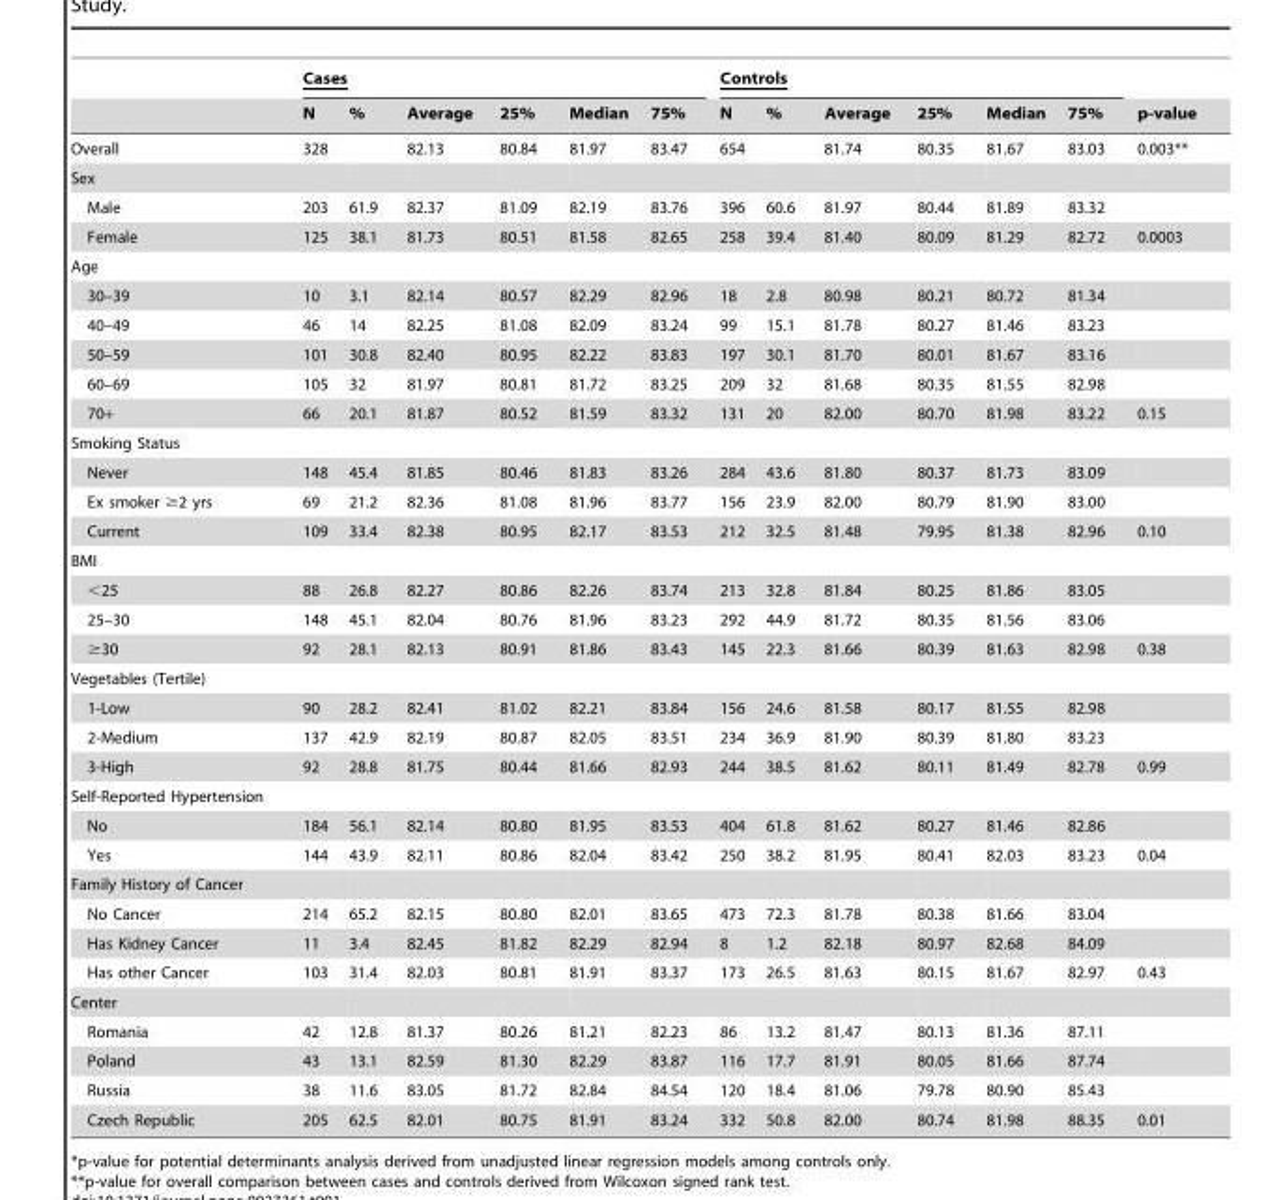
<table><thead><tr><td rowspan="2"></td><td colspan="6">Cases</td><td colspan="6">Controls</td><td rowspan="2">p-value</td></tr><tr><td>N</td><td>%</td><td>Average</td><td>25%</td><td>Median</td><td>75%</td><td>N</td><td>%</td><td>Average</td><td>25%</td><td>Median</td><td>75%</td></tr></thead><tbody><tr><td>Overall</td><td>328</td><td></td><td>82.13</td><td>80.84</td><td>81.97</td><td>83.47</td><td>654</td><td></td><td>81.74</td><td>80.35</td><td>81.67</td><td>83.03</td><td>0.003**</td></tr><tr><td colspan="14">Sex</td></tr><tr><td>Male</td><td>203</td><td>61.9</td><td>82.37</td><td>81.09</td><td>82.19</td><td>83.76</td><td>396</td><td>60.6</td><td>81.97</td><td>80.44</td><td>81.89</td><td>83.32</td><td></td></tr><tr><td>Female</td><td>125</td><td>38.1</td><td>81.73</td><td>80.51</td><td>81.58</td><td>82.65</td><td>258</td><td>39.4</td><td>81.40</td><td>80.09</td><td>81.29</td><td>82.72</td><td>0.0003</td></tr><tr><td colspan="14">Age</td></tr><tr><td>30–39</td><td>10</td><td>3.1</td><td>82.14</td><td>80.57</td><td>82.29</td><td>82.96</td><td>18</td><td>2.8</td><td>80.98</td><td>80.21</td><td>80.72</td><td>81.34</td><td></td></tr><tr><td>40–49</td><td>46</td><td>14</td><td>82.25</td><td>81.08</td><td>82.09</td><td>83.24</td><td>99</td><td>15.1</td><td>81.78</td><td>80.27</td><td>81.46</td><td>83.23</td><td></td></tr><tr><td>50–59</td><td>101</td><td>30.8</td><td>82.40</td><td>80.95</td><td>82.22</td><td>83.83</td><td>197</td><td>30.1</td><td>81.70</td><td>80.01</td><td>81.67</td><td>83.16</td><td></td></tr><tr><td>60–69</td><td>105</td><td>32</td><td>81.97</td><td>80.81</td><td>81.72</td><td>83.25</td><td>209</td><td>32</td><td>81.68</td><td>80.35</td><td>81.55</td><td>82.98</td><td></td></tr><tr><td>70+</td><td>66</td><td>20.1</td><td>81.87</td><td>80.52</td><td>81.59</td><td>83.32</td><td>131</td><td>20</td><td>82.00</td><td>80.70</td><td>81.98</td><td>83.22</td><td>0.15</td></tr><tr><td colspan="14">Smoking Status</td></tr><tr><td>Never</td><td>148</td><td>45.4</td><td>81.85</td><td>80.46</td><td>81.83</td><td>83.26</td><td>284</td><td>43.6</td><td>81.80</td><td>80.37</td><td>81.73</td><td>83.09</td><td></td></tr><tr><td>Ex smoker ≥2 yrs</td><td>69</td><td>21.2</td><td>82.36</td><td>81.08</td><td>81.96</td><td>83.77</td><td>156</td><td>23.9</td><td>82.00</td><td>80.79</td><td>81.90</td><td>83.00</td><td></td></tr><tr><td>Current</td><td>109</td><td>33.4</td><td>82.38</td><td>80.95</td><td>82.17</td><td>83.53</td><td>212</td><td>32.5</td><td>81.48</td><td>79.95</td><td>81.38</td><td>82.96</td><td>0.10</td></tr><tr><td colspan="14">BMI</td></tr><tr><td>&lt;25</td><td>88</td><td>26.8</td><td>82.27</td><td>80.86</td><td>82.26</td><td>83.74</td><td>213</td><td>32.8</td><td>81.84</td><td>80.25</td><td>81.86</td><td>83.05</td><td></td></tr><tr><td>25–30</td><td>148</td><td>45.1</td><td>82.04</td><td>80.76</td><td>81.96</td><td>83.23</td><td>292</td><td>44.9</td><td>81.72</td><td>80.35</td><td>81.56</td><td>83.06</td><td></td></tr><tr><td>≥30</td><td>92</td><td>28.1</td><td>82.13</td><td>80.91</td><td>81.86</td><td>83.43</td><td>145</td><td>22.3</td><td>81.66</td><td>80.39</td><td>81.63</td><td>82.98</td><td>0.38</td></tr><tr><td colspan="14">Vegetables (Tertile)</td></tr><tr><td>1-Low</td><td>90</td><td>28.2</td><td>82.41</td><td>81.02</td><td>82.21</td><td>83.84</td><td>156</td><td>24.6</td><td>81.58</td><td>80.17</td><td>81.55</td><td>82.98</td><td></td></tr><tr><td>2-Medium</td><td>137</td><td>42.9</td><td>82.19</td><td>80.87</td><td>82.05</td><td>83.51</td><td>234</td><td>36.9</td><td>81.90</td><td>80.39</td><td>81.80</td><td>83.23</td><td></td></tr><tr><td>3-High</td><td>92</td><td>28.8</td><td>81.75</td><td>80.44</td><td>81.66</td><td>82.93</td><td>244</td><td>38.5</td><td>81.62</td><td>80.11</td><td>81.49</td><td>82.78</td><td>0.99</td></tr><tr><td colspan="14">Self-Reported Hypertension</td></tr><tr><td>No</td><td>184</td><td>56.1</td><td>82.14</td><td>80.80</td><td>81.95</td><td>83.53</td><td>404</td><td>61.8</td><td>81.62</td><td>80.27</td><td>81.46</td><td>82.86</td><td></td></tr><tr><td>Yes</td><td>144</td><td>43.9</td><td>82.11</td><td>80.86</td><td>82.04</td><td>83.42</td><td>250</td><td>38.2</td><td>81.95</td><td>80.41</td><td>82.03</td><td>83.23</td><td>0.04</td></tr><tr><td colspan="14">Family History of Cancer</td></tr><tr><td>No Cancer</td><td>214</td><td>65.2</td><td>82.15</td><td>80.80</td><td>82.01</td><td>83.65</td><td>473</td><td>72.3</td><td>81.78</td><td>80.38</td><td>81.66</td><td>83.04</td><td></td></tr><tr><td>Has Kidney Cancer</td><td>11</td><td>3.4</td><td>82.45</td><td>81.82</td><td>82.29</td><td>82.94</td><td>8</td><td>1.2</td><td>82.18</td><td>80.97</td><td>82.68</td><td>84.09</td><td></td></tr><tr><td>Has other Cancer</td><td>103</td><td>31.4</td><td>82.03</td><td>80.81</td><td>81.91</td><td>83.37</td><td>173</td><td>26.5</td><td>81.63</td><td>80.15</td><td>81.67</td><td>82.97</td><td>0.43</td></tr><tr><td colspan="14">Center</td></tr><tr><td>Romania</td><td>42</td><td>12.8</td><td>81.37</td><td>80.26</td><td>81.21</td><td>82.23</td><td>86</td><td>13.2</td><td>81.47</td><td>80.13</td><td>81.36</td><td>87.11</td><td></td></tr><tr><td>Poland</td><td>43</td><td>13.1</td><td>82.59</td><td>81.30</td><td>82.29</td><td>83.87</td><td>116</td><td>17.7</td><td>81.91</td><td>80.05</td><td>81.66</td><td>87.74</td><td></td></tr><tr><td>Russia</td><td>38</td><td>11.6</td><td>83.05</td><td>81.72</td><td>82.84</td><td>84.54</td><td>120</td><td>18.4</td><td>81.06</td><td>79.78</td><td>80.90</td><td>85.43</td><td></td></tr><tr><td>Czech Republic</td><td>205</td><td>62.5</td><td>82.01</td><td>80.75</td><td>81.91</td><td>83.24</td><td>332</td><td>50.8</td><td>82.00</td><td>80.74</td><td>81.98</td><td>88.35</td><td>0.01</td></tr></tbody></table>